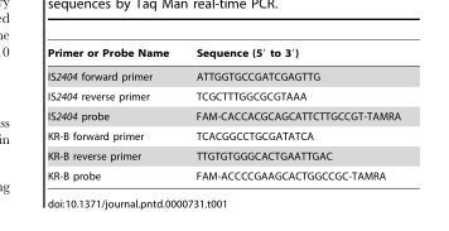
<table><thead><tr><td>Primer or Probe Name</td><td>Sequence (5′ to 3′)</td></tr></thead><tbody><tr><td>IS2404 forward primer</td><td>ATTGGTGCCGATCGAGTTG</td></tr><tr><td>IS2404 reverse primer</td><td>TCGCTTTGGCGCGTAAA</td></tr><tr><td>IS2404 probe</td><td>FAM-CACCACGCAGCATTCTTGCCGT-TAMRA</td></tr><tr><td>KR-B forward primer</td><td>TCACGGCCTGCGATATCA</td></tr><tr><td>KR-B reverse primer</td><td>TTGTGTGGGCACTGAATTGAC</td></tr><tr><td>KR-B probe</td><td>FAM-ACCCCGAAGCACTGGCCGC-TAMRA</td></tr></tbody></table>